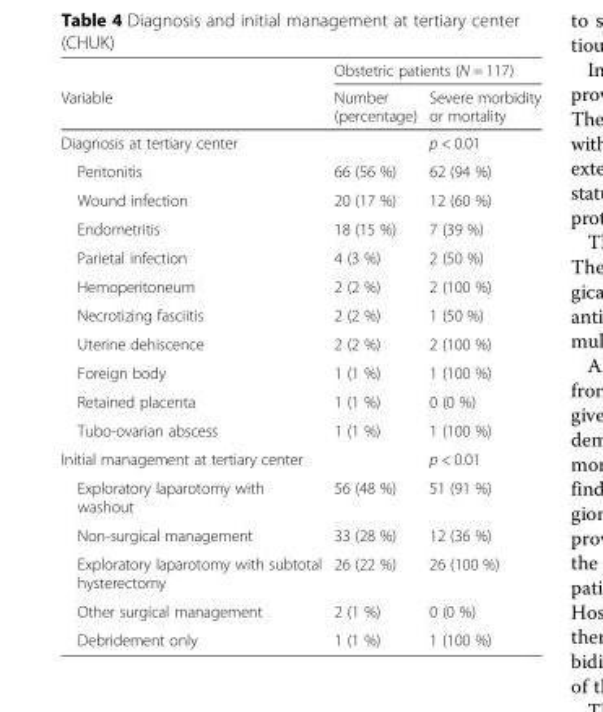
<table><thead><tr><td rowspan="2">Variable</td><td colspan="2">Obstetric patients (N = 117)</td></tr><tr><td>Number (percentage)</td><td>Severe morbidity or mortality</td></tr></thead><tbody><tr><td>Diagnosis at tertiary center</td><td></td><td>p &lt; 0.01</td></tr><tr><td>Peritonitis</td><td>66 (56 %)</td><td>62 (94 %)</td></tr><tr><td>Wound infection</td><td>20 (17 %)</td><td>12 (60 %)</td></tr><tr><td>Endometritis</td><td>18 (15 %)</td><td>7 (39 %)</td></tr><tr><td>Parietal infection</td><td>4 (3 %)</td><td>2 (50 %)</td></tr><tr><td>Hemoperitoneum</td><td>2 (2 %)</td><td>2 (100 %)</td></tr><tr><td>Necrotizing fasciitis</td><td>2 (2 %)</td><td>1 (50 %)</td></tr><tr><td>Uterine dehiscence</td><td>2 (2 %)</td><td>2 (100 %)</td></tr><tr><td>Foreign body</td><td>1 (1 %)</td><td>1 (100 %)</td></tr><tr><td>Retained placenta</td><td>1 (1 %)</td><td>0 (0 %)</td></tr><tr><td>Tubo-ovarian abscess</td><td>1 (1 %)</td><td>1 (100 %)</td></tr><tr><td>Initial management at tertiary center</td><td></td><td>p &lt; 0.01</td></tr><tr><td>Exploratory laparotomy with washout</td><td>56 (48 %)</td><td>51 (91 %)</td></tr><tr><td>Non-surgical management</td><td>33 (28 %)</td><td>12 (36 %)</td></tr><tr><td>Exploratory laparotomy with subtotal hysterectomy</td><td>26 (22 %)</td><td>26 (100 %)</td></tr><tr><td>Other surgical management</td><td>2 (1 %)</td><td>0 (0 %)</td></tr><tr><td>Debridement only</td><td>1 (1 %)</td><td>1 (100 %)</td></tr></tbody></table>